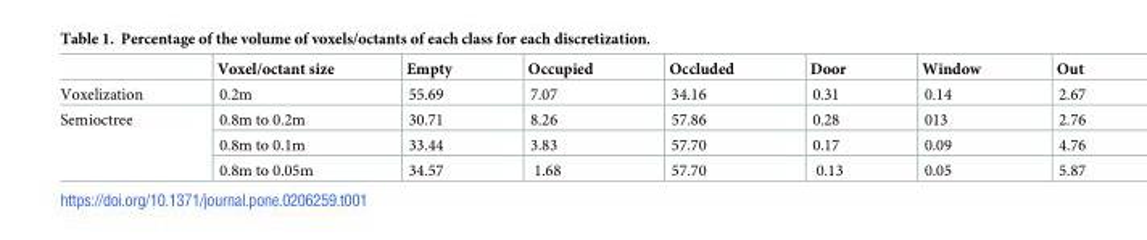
<table><thead><tr><td></td><td>Voxel/octant size</td><td>Empty</td><td>Occupied</td><td>Occluded</td><td>Door</td><td>Window</td><td>Out</td></tr></thead><tbody><tr><td>Voxelization</td><td>0.2m</td><td>55.69</td><td>7.07</td><td>34.16</td><td>0.31</td><td>0.14</td><td>2.67</td></tr><tr><td rowspan="3">Semioctree</td><td>0.8m to 0.2m</td><td>30.71</td><td>8.26</td><td>57.86</td><td>0.28</td><td>013</td><td>2.76</td></tr><tr><td>0.8m to 0.1m</td><td>33.44</td><td>3.83</td><td>57.70</td><td>0.17</td><td>0.09</td><td>4.76</td></tr><tr><td>0.8m to 0.05m</td><td>34.57</td><td>1.68</td><td>57.70</td><td>0.13</td><td>0.05</td><td>5.87</td></tr></tbody></table>